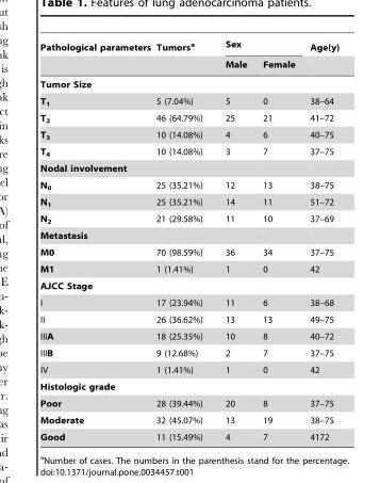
<table><thead><tr><td rowspan="2">Pathological parameters</td><td rowspan="2">Tumors<sup>a</sup></td><td colspan="2">Sex</td><td rowspan="2">Age(y)</td></tr><tr><td>Male</td><td>Female</td></tr></thead><tbody><tr><td colspan="5">Tumor Size</td></tr><tr><td>T<sub>1</sub></td><td>5 (7.04%)</td><td>5</td><td>0</td><td>38–64</td></tr><tr><td>T<sub>2</sub></td><td>46 (64.79%)</td><td>25</td><td>21</td><td>41–72</td></tr><tr><td>T<sub>3</sub></td><td>10 (14.08%)</td><td>4</td><td>6</td><td>40–75</td></tr><tr><td>T<sub>4</sub></td><td>10 (14.08%)</td><td>3</td><td>7</td><td>37–75</td></tr><tr><td colspan="5">Nodal involvement</td></tr><tr><td>N<sub>0</sub></td><td>25 (35.21%)</td><td>12</td><td>13</td><td>38–75</td></tr><tr><td>N<sub>1</sub></td><td>25 (35.21%)</td><td>14</td><td>11</td><td>51–72</td></tr><tr><td>N<sub>2</sub></td><td>21 (29.58%)</td><td>11</td><td>10</td><td>37–69</td></tr><tr><td colspan="5">Metastasis</td></tr><tr><td>M0</td><td>70 (98.59%)</td><td>36</td><td>34</td><td>37–75</td></tr><tr><td>M1</td><td>1 (1.41%)</td><td>1</td><td>0</td><td>42</td></tr><tr><td colspan="5">AJCC Stage</td></tr><tr><td>I</td><td>17 (23.94%)</td><td>11</td><td>6</td><td>38–68</td></tr><tr><td>II</td><td>26 (36.62%)</td><td>13</td><td>13</td><td>49–75</td></tr><tr><td>IIIA</td><td>18 (25.35%)</td><td>10</td><td>8</td><td>40–72</td></tr><tr><td>IIIB</td><td>9 (12.68%)</td><td>2</td><td>7</td><td>37–75</td></tr><tr><td>IV</td><td>1 (1.41%)</td><td>1</td><td>0</td><td>42</td></tr><tr><td colspan="5">Histologic grade</td></tr><tr><td>Poor</td><td>28 (39.44%)</td><td>20</td><td>8</td><td>37–75</td></tr><tr><td>Moderate</td><td>32 (45.07%)</td><td>13</td><td>19</td><td>38–75</td></tr><tr><td>Good</td><td>11 (15.49%)</td><td>4</td><td>7</td><td>4172</td></tr></tbody></table>